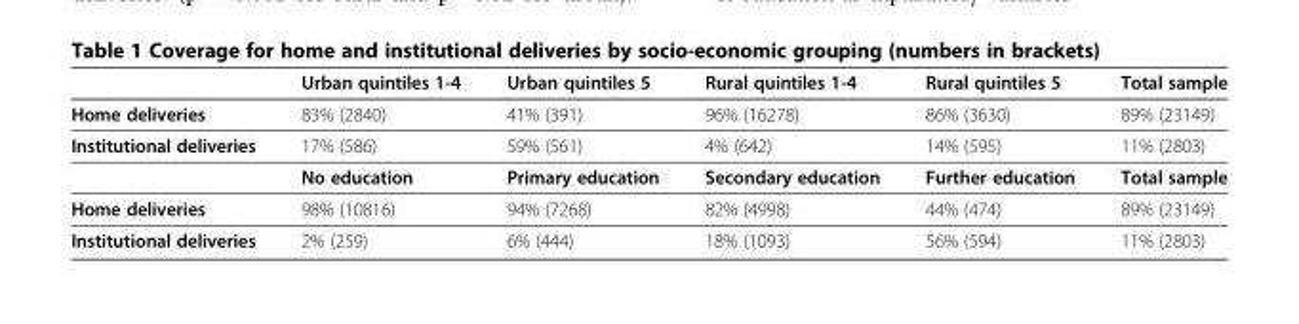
<table><thead><tr><td></td><td>Urban quintiles 1-4</td><td>Urban quintiles 5</td><td>Rural quintiles 1-4</td><td>Rural quintiles 5</td><td>Total sample</td></tr></thead><tbody><tr><td>Home deliveries</td><td>83% (2840)</td><td>41% (391)</td><td>96% (16278)</td><td>86% (3630)</td><td>89% (23149)</td></tr><tr><td rowspan="2">Institutional deliveries</td><td>17% (586)</td><td>59% (561)</td><td>4% (642)</td><td>14% (595)</td><td>11% (2803)</td></tr><tr><td>No education</td><td>Primary education</td><td>Secondary education</td><td>Further education</td><td>Total sample</td></tr><tr><td>Home deliveries</td><td>98% (10816)</td><td>94% (7268)</td><td>82% (4998)</td><td>44% (474)</td><td>89% (23149)</td></tr><tr><td>Institutional deliveries</td><td>2% (259)</td><td>6% (444)</td><td>18% (1093)</td><td>56% (594)</td><td>11% (2803)</td></tr></tbody></table>